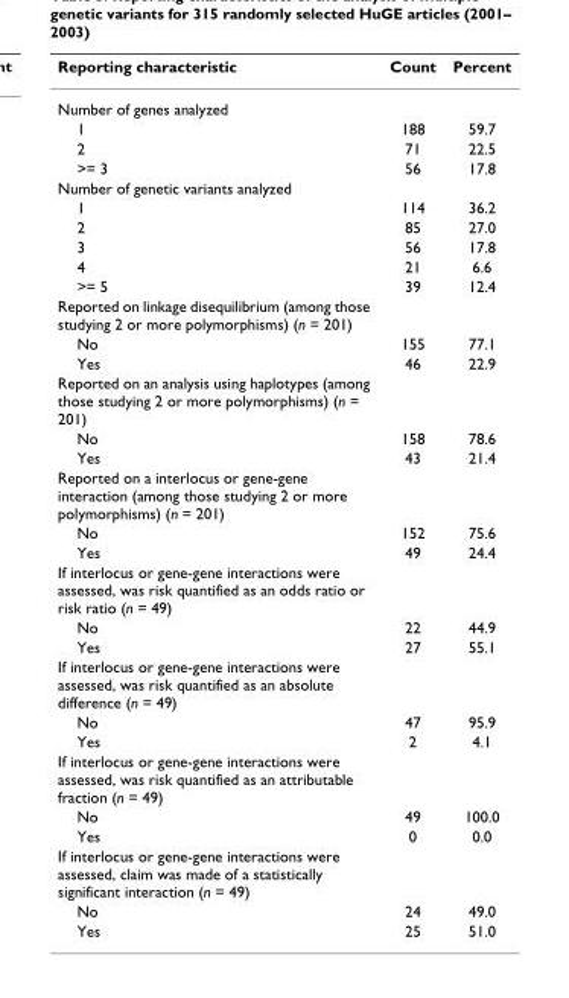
<table><thead><tr><td>Reporting characteristic</td><td>Count</td><td>Percent</td></tr></thead><tbody><tr><td colspan="3">Number of genes analyzed</td></tr><tr><td>1</td><td>188</td><td>59.7</td></tr><tr><td>2</td><td>71</td><td>22.5</td></tr><tr><td>&gt;= 3</td><td>56</td><td>17.8</td></tr><tr><td colspan="3">Number of genetic variants analyzed</td></tr><tr><td>1</td><td>114</td><td>36.2</td></tr><tr><td>2</td><td>85</td><td>27.0</td></tr><tr><td>3</td><td>56</td><td>17.8</td></tr><tr><td>4</td><td>21</td><td>6.6</td></tr><tr><td>&gt;= 5</td><td>39</td><td>12.4</td></tr><tr><td colspan="3">Reported on linkage disequilibrium (among those studying 2 or more polymorphisms) (n = 201)</td></tr><tr><td>No</td><td>155</td><td>77.1</td></tr><tr><td>Yes</td><td>46</td><td>22.9</td></tr><tr><td colspan="3">Reported on an analysis using haplotypes (among those studying 2 or more polymorphisms) (n = 201)</td></tr><tr><td>No</td><td>158</td><td>78.6</td></tr><tr><td>Yes</td><td>43</td><td>21.4</td></tr><tr><td colspan="3">Reported on a interlocus or gene-gene interaction (among those studying 2 or more polymorphisms) (n = 201)</td></tr><tr><td>No</td><td>152</td><td>75.6</td></tr><tr><td>Yes</td><td>49</td><td>24.4</td></tr><tr><td colspan="3">If interlocus or gene-gene interactions were assessed, was risk quantified as an odds ratio or risk ratio (n = 49)</td></tr><tr><td>No</td><td>22</td><td>44.9</td></tr><tr><td>Yes</td><td>27</td><td>55.1</td></tr><tr><td colspan="3">If interlocus or gene-gene interactions were assessed, was risk quantified as an absolute difference (n = 49)</td></tr><tr><td>No</td><td>47</td><td>95.9</td></tr><tr><td>Yes</td><td>2</td><td>4.1</td></tr><tr><td colspan="3">If interlocus or gene-gene interactions were assessed, was risk quantified as an attributable fraction (n = 49)</td></tr><tr><td>No</td><td>49</td><td>100.0</td></tr><tr><td>Yes</td><td>0</td><td>0.0</td></tr><tr><td colspan="3">If interlocus or gene-gene interactions were assessed, claim was made of a statistically significant interaction (n = 49)</td></tr><tr><td>No</td><td>24</td><td>49.0</td></tr><tr><td>Yes</td><td>25</td><td>51.0</td></tr></tbody></table>